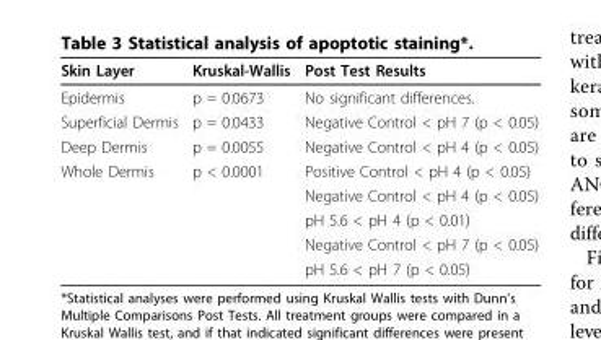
<table><thead><tr><td>Skin Layer</td><td>Kruskal-Wallis</td><td>Post Test Results</td></tr></thead><tbody><tr><td>Epidermis</td><td>p = 0.0673</td><td>No significant differences.</td></tr><tr><td>Superficial Dermis</td><td>p = 0.0433</td><td>Negative Control &lt; pH 7 (p &lt; 0.05)</td></tr><tr><td>Deep Dermis</td><td>p = 0.0055</td><td>Negative Control &lt; pH 4 (p &lt; 0.05)</td></tr><tr><td rowspan="5">Whole Dermis</td><td>p &lt; 0.0001</td><td>Positive Control &lt; pH 4 (p &lt; 0.05)</td></tr><tr><td></td><td>Negative Control &lt; pH 4 (p &lt; 0.05)</td></tr><tr><td></td><td>pH 5.6 &lt; pH 4 (p &lt; 0.01)</td></tr><tr><td></td><td>Negative Control &lt; pH 7 (p &lt; 0.05)</td></tr><tr><td></td><td>pH 5.6 &lt; pH 7 (p &lt; 0.05)</td></tr></tbody></table>